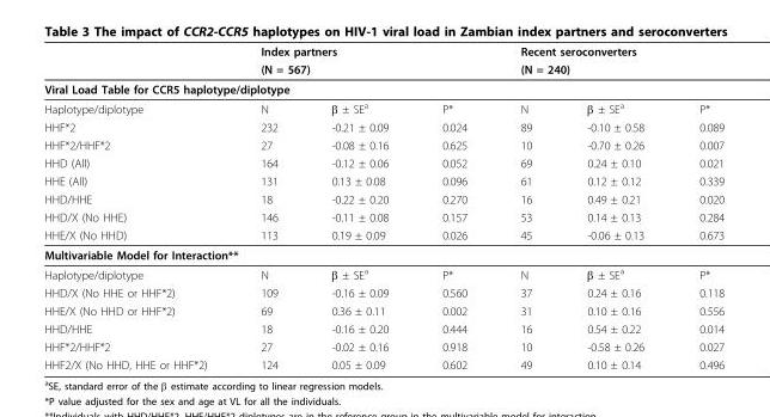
<table><thead><tr><td rowspan="2"></td><td rowspan="2" colspan="3">Index partners (N = 567)</td><td rowspan="2" colspan="3">Recent seroconverters (N = 240)</td></tr><tr></tr><tr><td colspan="7">Viral Load Table for CCR5 haplotype/diplotype</td></tr><tr><td>Haplotype/diplotype</td><td>N</td><td>β ± SE<sup>a</sup></td><td>P*</td><td>N</td><td>β ± SE<sup>a</sup></td><td>P*</td></tr></thead><tbody><tr><td>HHF*2</td><td>232</td><td>-0.21 ± 0.09</td><td>0.024</td><td>89</td><td>-0.10 ± 0.58</td><td>0.089</td></tr><tr><td>HHF*2/HHF*2</td><td>27</td><td>-0.08 ± 0.16</td><td>0.625</td><td>10</td><td>-0.70 ± 0.26</td><td>0.007</td></tr><tr><td>HHD (All)</td><td>164</td><td>-0.12 ± 0.06</td><td>0.052</td><td>69</td><td>0.24 ± 0.10</td><td>0.021</td></tr><tr><td>HHE (All)</td><td>131</td><td>0.13 ± 0.08</td><td>0.096</td><td>61</td><td>0.12 ± 0.12</td><td>0.339</td></tr><tr><td>HHD/HHE</td><td>18</td><td>-0.22 ± 0.20</td><td>0.270</td><td>16</td><td>0.49 ± 0.21</td><td>0.020</td></tr><tr><td>HHD/X (No HHE)</td><td>146</td><td>-0.11 ± 0.08</td><td>0.157</td><td>53</td><td>0.14 ± 0.13</td><td>0.284</td></tr><tr><td>HHE/X (No HHD)</td><td>113</td><td>0.19 ± 0.09</td><td>0.026</td><td>45</td><td>-0.06 ± 0.13</td><td>0.673</td></tr><tr><td colspan="7">Multivariable Model for Interaction**</td></tr><tr><td>Haplotype/diplotype</td><td>N</td><td>β ± SE<sup>a</sup></td><td>P*</td><td>N</td><td>β ± SE<sup>a</sup></td><td>P*</td></tr><tr><td>HHD/X (No HHE or HHF*2)</td><td>109</td><td>-0.16 ± 0.09</td><td>0.560</td><td>37</td><td>0.24 ± 0.16</td><td>0.118</td></tr><tr><td>HHE/X (No HHD or HHF*2)</td><td>69</td><td>0.36 ± 0.11</td><td>0.002</td><td>31</td><td>0.10 ± 0.16</td><td>0.556</td></tr><tr><td>HHD/HHE</td><td>18</td><td>-0.16 ± 0.20</td><td>0.444</td><td>16</td><td>0.54 ± 0.22</td><td>0.014</td></tr><tr><td>HHF*2/HHF*2</td><td>27</td><td>-0.02 ± 0.16</td><td>0.918</td><td>10</td><td>-0.58 ± 0.26</td><td>0.027</td></tr><tr><td>HHF2/X (No HHD, HHE or HHF*2)</td><td>124</td><td>0.05 ± 0.09</td><td>0.602</td><td>49</td><td>0.10 ± 0.14</td><td>0.496</td></tr></tbody></table>